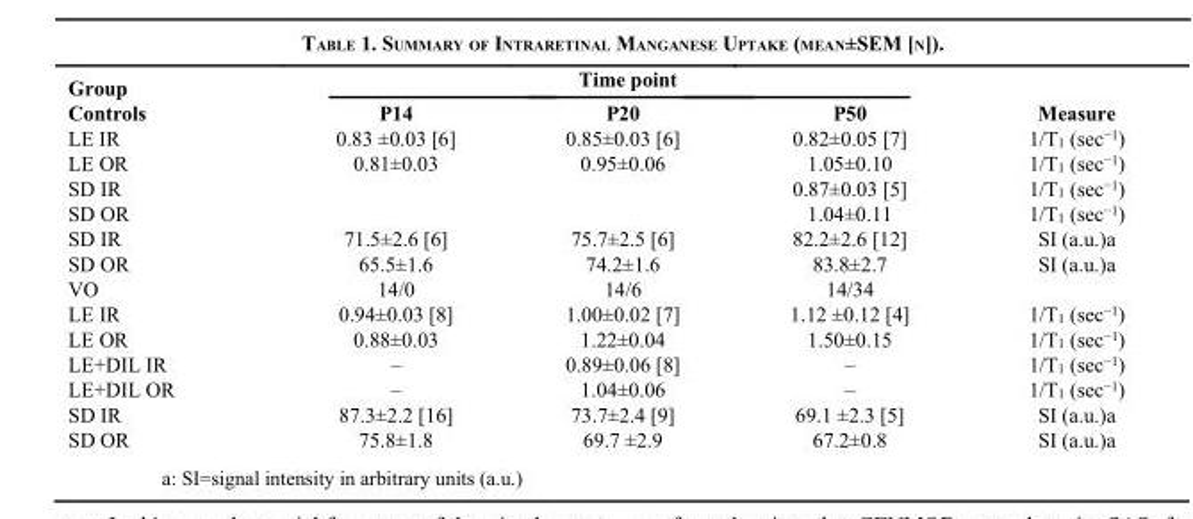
<table><thead><tr><td rowspan="2">Group Controls</td><td colspan="3">Time point</td><td rowspan="2">Measure</td></tr><tr><td>P14</td><td>P20</td><td>P50</td></tr></thead><tbody><tr><td>LE IR</td><td>0.83 ±0.03 [6]</td><td>0.85±0.03 [6]</td><td>0.82±0.05 [7]</td><td>1/T<sub>1</sub> (sec<sup>−1</sup>)</td></tr><tr><td>LE OR</td><td>0.81±0.03</td><td>0.95±0.06</td><td>1.05±0.10</td><td>1/T<sub>1</sub> (sec<sup>−1</sup>)</td></tr><tr><td>SD IR</td><td></td><td></td><td>0.87±0.03 [5]</td><td>1/T<sub>1</sub> (sec<sup>−1</sup>)</td></tr><tr><td>SD OR</td><td></td><td></td><td>1.04±0.11</td><td>1/T<sub>1</sub> (sec<sup>−1</sup>)</td></tr><tr><td>SD IR</td><td>71.5±2.6 [6]</td><td>75.7±2.5 [6]</td><td>82.2±2.6 [12]</td><td>SI (a.u.)a</td></tr><tr><td>SD OR</td><td>65.5±1.6</td><td>74.2±1.6</td><td>83.8±2.7</td><td>SI (a.u.)a</td></tr><tr><td>VO</td><td>14/0</td><td>14/6</td><td>14/34</td><td></td></tr><tr><td>LE IR</td><td>0.94±0.03 [8]</td><td>1.00±0.02 [7]</td><td>1.12 ±0.12 [4]</td><td>1/T<sub>1</sub> (sec<sup>−1</sup>)</td></tr><tr><td>LE OR</td><td>0.88±0.03</td><td>1.22±0.04</td><td>1.50±0.15</td><td>1/T<sub>1</sub> (sec<sup>−1</sup>)</td></tr><tr><td>LE+DIL IR</td><td>–</td><td>0.89±0.06 [8]</td><td>–</td><td>1/T<sub>1</sub> (sec<sup>−1</sup>)</td></tr><tr><td>LE+DIL OR</td><td>–</td><td>1.04±0.06</td><td>–</td><td>1/T<sub>1</sub> (sec<sup>−1</sup>)</td></tr><tr><td>SD IR</td><td>87.3±2.2 [16]</td><td>73.7±2.4 [9]</td><td>69.1 ±2.3 [5]</td><td>SI (a.u.)a</td></tr><tr><td>SD OR</td><td>75.8±1.8</td><td>69.7 ±2.9</td><td>67.2±0.8</td><td>SI (a.u.)a</td></tr></tbody></table>